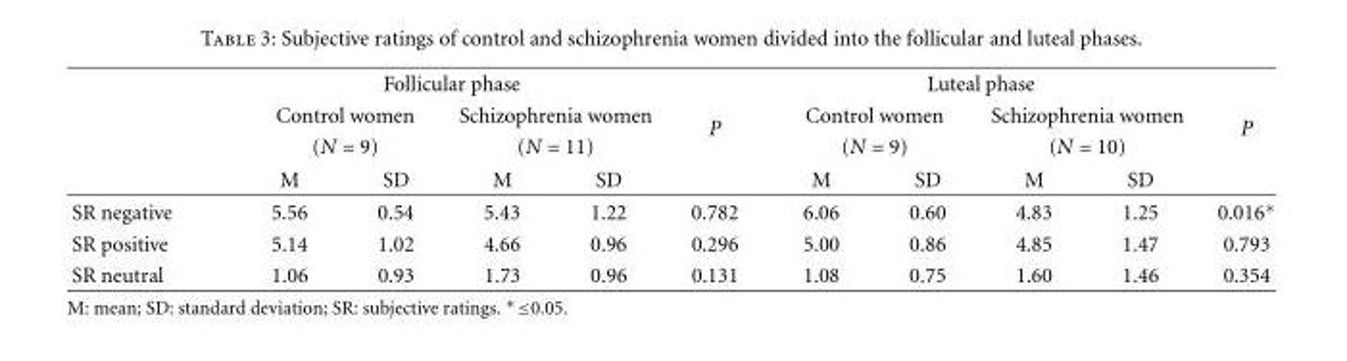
<table><thead><tr><td rowspan="4"></td><td colspan="4">Follicular phase</td><td rowspan="4">P</td><td colspan="4">Luteal phase</td><td rowspan="4">P</td></tr><tr><td rowspan="2" colspan="2">Control women (N = 9)</td><td rowspan="2" colspan="2">Schizophrenia women (N = 11)</td><td rowspan="2" colspan="2">Control women (N = 9)</td><td rowspan="2" colspan="2">Schizophrenia women (N = 10)</td></tr><tr></tr><tr><td>M</td><td>SD</td><td>M</td><td>SD</td><td>M</td><td>SD</td><td>M</td><td>SD</td></tr></thead><tbody><tr><td>SR negative</td><td>5.56</td><td>0.54</td><td>5.43</td><td>1.22</td><td>0.782</td><td>6.06</td><td>0.60</td><td>4.83</td><td>1.25</td><td>0.016∗</td></tr><tr><td>SR positive</td><td>5.14</td><td>1.02</td><td>4.66</td><td>0.96</td><td>0.296</td><td>5.00</td><td>0.86</td><td>4.85</td><td>1.47</td><td>0.793</td></tr><tr><td>SR neutral</td><td>1.06</td><td>0.93</td><td>1.73</td><td>0.96</td><td>0.131</td><td>1.08</td><td>0.75</td><td>1.60</td><td>1.46</td><td>0.354</td></tr></tbody></table>